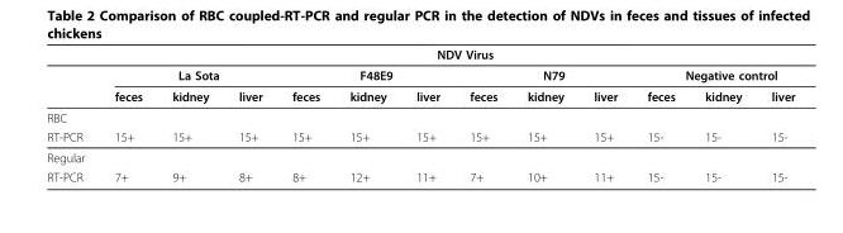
<table><thead><tr><td rowspan="3"></td><td colspan="12">NDV Virus</td></tr><tr><td colspan="3">La Sota</td><td colspan="3">F48E9</td><td colspan="3">N79</td><td colspan="3">Negative control</td></tr><tr><td>feces</td><td>kidney</td><td>liver</td><td>feces</td><td>kidney</td><td>liver</td><td>feces</td><td>kidney</td><td>liver</td><td>feces</td><td>kidney</td><td>liver</td></tr></thead><tbody><tr><td colspan="13">RBC</td></tr><tr><td>RT-PCR</td><td>15+</td><td>15+</td><td>15+</td><td>15+</td><td>15+</td><td>15+</td><td>15+</td><td>15+</td><td>15+</td><td>15-</td><td>15-</td><td>15-</td></tr><tr><td colspan="13">Regular</td></tr><tr><td>RT-PCR</td><td>7+</td><td>9+</td><td>8+</td><td>8+</td><td>12+</td><td>11+</td><td>7+</td><td>10+</td><td>11+</td><td>15-</td><td>15-</td><td>15-</td></tr></tbody></table>